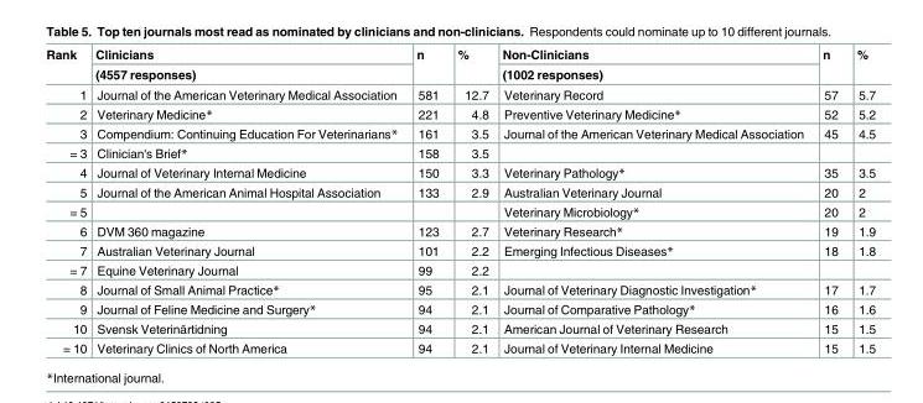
<table><thead><tr><td rowspan="2">Rank</td><td rowspan="2">Clinicians (4557 responses)</td><td rowspan="2">n</td><td rowspan="2">%</td><td rowspan="2">Non-Clinicians (1002 responses)</td><td rowspan="2">n</td><td rowspan="2">%</td></tr><tr></tr></thead><tbody><tr><td>1</td><td>Journal of the American Veterinary Medical Association</td><td>581</td><td>12.7</td><td>Veterinary Record</td><td>57</td><td>5.7</td></tr><tr><td>2</td><td>Veterinary Medicine*</td><td>221</td><td>4.8</td><td>Preventive Veterinary Medicine*</td><td>52</td><td>5.2</td></tr><tr><td>3</td><td>Compendium: Continuing Education For Veterinarians*</td><td>161</td><td>3.5</td><td>Journal of the American Veterinary Medical Association</td><td>45</td><td>4.5</td></tr><tr><td>= 3</td><td>Clinician&#x27;s Brief*</td><td>158</td><td>3.5</td><td></td><td></td><td></td></tr><tr><td>4</td><td>Journal of Veterinary Internal Medicine</td><td>150</td><td>3.3</td><td>Veterinary Pathology*</td><td>35</td><td>3.5</td></tr><tr><td>5</td><td>Journal of the American Animal Hospital Association</td><td>133</td><td>2.9</td><td>Australian Veterinary Journal</td><td>20</td><td>2</td></tr><tr><td>= 5</td><td></td><td></td><td></td><td>Veterinary Microbiology*</td><td>20</td><td>2</td></tr><tr><td>6</td><td>DVM 360 magazine</td><td>123</td><td>2.7</td><td>Veterinary Research*</td><td>19</td><td>1.9</td></tr><tr><td>7</td><td>Australian Veterinary Journal</td><td>101</td><td>2.2</td><td>Emerging Infectious Diseases*</td><td>18</td><td>1.8</td></tr><tr><td>= 7</td><td>Equine Veterinary Journal</td><td>99</td><td>2.2</td><td></td><td></td><td></td></tr><tr><td>8</td><td>Journal of Small Animal Practice*</td><td>95</td><td>2.1</td><td>Journal of Veterinary Diagnostic Investigation*</td><td>17</td><td>1.7</td></tr><tr><td>9</td><td>Journal of Feline Medicine and Surgery*</td><td>94</td><td>2.1</td><td>Journal of Comparative Pathology*</td><td>16</td><td>1.6</td></tr><tr><td>10</td><td>Svensk Veterinärtidning</td><td>94</td><td>2.1</td><td>American Journal of Veterinary Research</td><td>15</td><td>1.5</td></tr><tr><td>= 10</td><td>Veterinary Clinics of North America</td><td>94</td><td>2.1</td><td>Journal of Veterinary Internal Medicine</td><td>15</td><td>1.5</td></tr></tbody></table>